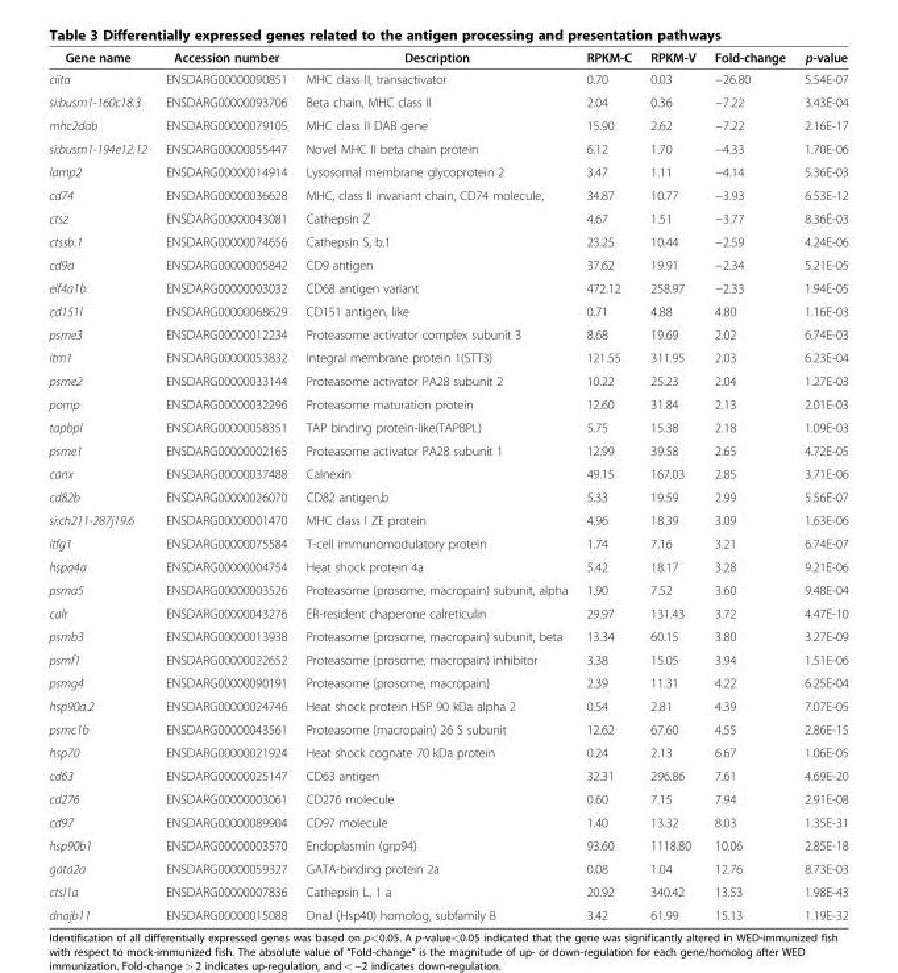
<table><thead><tr><td>Gene name</td><td>Accession number</td><td>Description</td><td>RPKM-C</td><td>RPKM-V</td><td>Fold-change</td><td>p-value</td></tr></thead><tbody><tr><td>ciita</td><td>ENSDARG00000090851</td><td>MHC class II, transactivator</td><td>0.70</td><td>0.03</td><td>−26.80</td><td>5.54E-07</td></tr><tr><td>si:busm1-160c18.3</td><td>ENSDARG00000093706</td><td>Beta chain, MHC class II</td><td>2.04</td><td>0.36</td><td>−7.22</td><td>3.43E-04</td></tr><tr><td>mhc2dab</td><td>ENSDARG00000079105</td><td>MHC class II DAB gene</td><td>15.90</td><td>2.62</td><td>−7.22</td><td>2.16E-17</td></tr><tr><td>si:busm1-194e12.12</td><td>ENSDARG00000055447</td><td>Novel MHC II beta chain protein</td><td>6.12</td><td>1.70</td><td>−4.33</td><td>1.70E-06</td></tr><tr><td>lamp2</td><td>ENSDARG00000014914</td><td>Lysosomal membrane glycoprotein 2</td><td>3.47</td><td>1.11</td><td>−4.14</td><td>5.36E-03</td></tr><tr><td>cd74</td><td>ENSDARG00000036628</td><td>MHC, class II invariant chain, CD74 molecule,</td><td>34.87</td><td>10.77</td><td>−3.93</td><td>6.53E-12</td></tr><tr><td>ctsz</td><td>ENSDARG00000043081</td><td>Cathepsin Z</td><td>4.67</td><td>1.51</td><td>−3.77</td><td>8.36E-03</td></tr><tr><td>ctssb.1</td><td>ENSDARG00000074656</td><td>Cathepsin S, b.1</td><td>23.25</td><td>10.44</td><td>−2.59</td><td>4.24E-06</td></tr><tr><td>cd9a</td><td>ENSDARG00000005842</td><td>CD9 antigen</td><td>37.62</td><td>19.91</td><td>−2.34</td><td>5.21E-05</td></tr><tr><td>eif4a1b</td><td>ENSDARG00000003032</td><td>CD68 antigen variant</td><td>472.12</td><td>258.97</td><td>−2.33</td><td>1.94E-05</td></tr><tr><td>cd151l</td><td>ENSDARG00000068629</td><td>CD151 antigen, like</td><td>0.71</td><td>4.88</td><td>4.80</td><td>1.16E-03</td></tr><tr><td>psme3</td><td>ENSDARG00000012234</td><td>Proteasome activator complex subunit 3</td><td>8.68</td><td>19.69</td><td>2.02</td><td>6.74E-03</td></tr><tr><td>itm1</td><td>ENSDARG00000053832</td><td>Integral membrane protein 1(STT3)</td><td>121.55</td><td>311.95</td><td>2.03</td><td>6.23E-04</td></tr><tr><td>psme2</td><td>ENSDARG00000033144</td><td>Proteasome activator PA28 subunit 2</td><td>10.22</td><td>25.23</td><td>2.04</td><td>1.27E-03</td></tr><tr><td>pomp</td><td>ENSDARG00000032296</td><td>Proteasome maturation protein</td><td>12.60</td><td>31.84</td><td>2.13</td><td>2.01E-03</td></tr><tr><td>tapbpl</td><td>ENSDARG00000058351</td><td>TAP binding protein-like(TAPBPL)</td><td>5.75</td><td>15.38</td><td>2.18</td><td>1.09E-03</td></tr><tr><td>psme1</td><td>ENSDARG00000002165</td><td>Proteasome activator PA28 subunit 1</td><td>12.99</td><td>39.58</td><td>2.65</td><td>4.72E-05</td></tr><tr><td>canx</td><td>ENSDARG00000037488</td><td>Calnexin</td><td>49.15</td><td>167.03</td><td>2.85</td><td>3.71E-06</td></tr><tr><td>cd82b</td><td>ENSDARG00000026070</td><td>CD82 antigen,b</td><td>5.33</td><td>19.59</td><td>2.99</td><td>5.56E-07</td></tr><tr><td>si:ch211-287j19.6</td><td>ENSDARG00000001470</td><td>MHC class I ZE protein</td><td>4.96</td><td>18.39</td><td>3.09</td><td>1.63E-06</td></tr><tr><td>itfg1</td><td>ENSDARG00000075584</td><td>T-cell immunomodulatory protein</td><td>1.74</td><td>7.16</td><td>3.21</td><td>6.74E-07</td></tr><tr><td>hspa4a</td><td>ENSDARG00000004754</td><td>Heat shock protein 4a</td><td>5.42</td><td>18.17</td><td>3.28</td><td>9.21E-06</td></tr><tr><td>psma5</td><td>ENSDARG00000003526</td><td>Proteasome (prosome, macropain) subunit, alpha</td><td>1.90</td><td>7.52</td><td>3.60</td><td>9.48E-04</td></tr><tr><td>calr</td><td>ENSDARG00000043276</td><td>ER-resident chaperone calreticulin</td><td>29.97</td><td>131.43</td><td>3.72</td><td>4.47E-10</td></tr><tr><td>psmb3</td><td>ENSDARG00000013938</td><td>Proteasome (prosome, macropain) subunit, beta</td><td>13.34</td><td>60.15</td><td>3.80</td><td>3.27E-09</td></tr><tr><td>psmf1</td><td>ENSDARG00000022652</td><td>Proteasome (prosome, macropain) inhibitor</td><td>3.38</td><td>15.05</td><td>3.94</td><td>1.51E-06</td></tr><tr><td>psmg4</td><td>ENSDARG00000090191</td><td>Proteasome (prosome, macropain)</td><td>2.39</td><td>11.31</td><td>4.22</td><td>6.25E-04</td></tr><tr><td>hsp90a.2</td><td>ENSDARG00000024746</td><td>Heat shock protein HSP 90 kDa alpha 2</td><td>0.54</td><td>2.81</td><td>4.39</td><td>7.07E-05</td></tr><tr><td>psmc1b</td><td>ENSDARG00000043561</td><td>Proteasome (macropain) 26 S subunit</td><td>12.62</td><td>67.60</td><td>4.55</td><td>2.86E-15</td></tr><tr><td>hsp70</td><td>ENSDARG00000021924</td><td>Heat shock cognate 70 kDa protein</td><td>0.24</td><td>2.13</td><td>6.67</td><td>1.06E-05</td></tr><tr><td>cd63</td><td>ENSDARG00000025147</td><td>CD63 antigen</td><td>32.31</td><td>296.86</td><td>7.61</td><td>4.69E-20</td></tr><tr><td>cd276</td><td>ENSDARG00000003061</td><td>CD276 molecule</td><td>0.60</td><td>7.15</td><td>7.94</td><td>2.91E-08</td></tr><tr><td>cd97</td><td>ENSDARG00000089904</td><td>CD97 molecule</td><td>1.40</td><td>13.32</td><td>8.03</td><td>1.35E-31</td></tr><tr><td>hsp90b1</td><td>ENSDARG00000003570</td><td>Endoplasmin (grp94)</td><td>93.60</td><td>1118.80</td><td>10.06</td><td>2.85E-18</td></tr><tr><td>gata2a</td><td>ENSDARG00000059327</td><td>GATA-binding protein 2a</td><td>0.08</td><td>1.04</td><td>12.76</td><td>8.73E-03</td></tr><tr><td>ctsl1a</td><td>ENSDARG00000007836</td><td>Cathepsin L, 1 a</td><td>20.92</td><td>340.42</td><td>13.53</td><td>1.98E-43</td></tr><tr><td>dnajb11</td><td>ENSDARG00000015088</td><td>DnaJ (Hsp40) homolog, subfamily B</td><td>3.42</td><td>61.99</td><td>15.13</td><td>1.19E-32</td></tr></tbody></table>